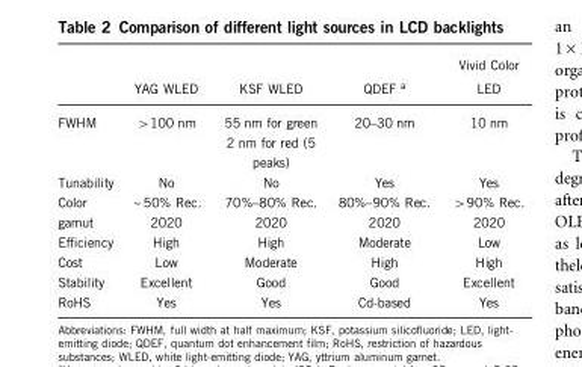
<table><thead><tr><td></td><td>YAG WLED</td><td>KSF WLED</td><td>QDEF a</td><td>Vivid Color LED</td></tr></thead><tbody><tr><td>FWHM</td><td>&gt;100 nm</td><td>55 nm for green 2 nm for red (5 peaks)</td><td>20–30 nm</td><td>10 nm</td></tr><tr><td>Tunability</td><td>No</td><td>No</td><td>Yes</td><td>Yes</td></tr><tr><td>Color gamut</td><td>~ 50% Rec. 2020</td><td>70%–80% Rec. 2020</td><td>80%–90% Rec. 2020</td><td>&gt;90% Rec. 2020</td></tr><tr><td>Efficiency</td><td>High</td><td>High</td><td>Moderate</td><td>Low</td></tr><tr><td>Cost</td><td>Low</td><td>Moderate</td><td>High</td><td>High</td></tr><tr><td>Stability</td><td>Excellent</td><td>Good</td><td>Good</td><td>Excellent</td></tr><tr><td>RoHS</td><td>Yes</td><td>Yes</td><td>Cd-based</td><td>Yes</td></tr></tbody></table>